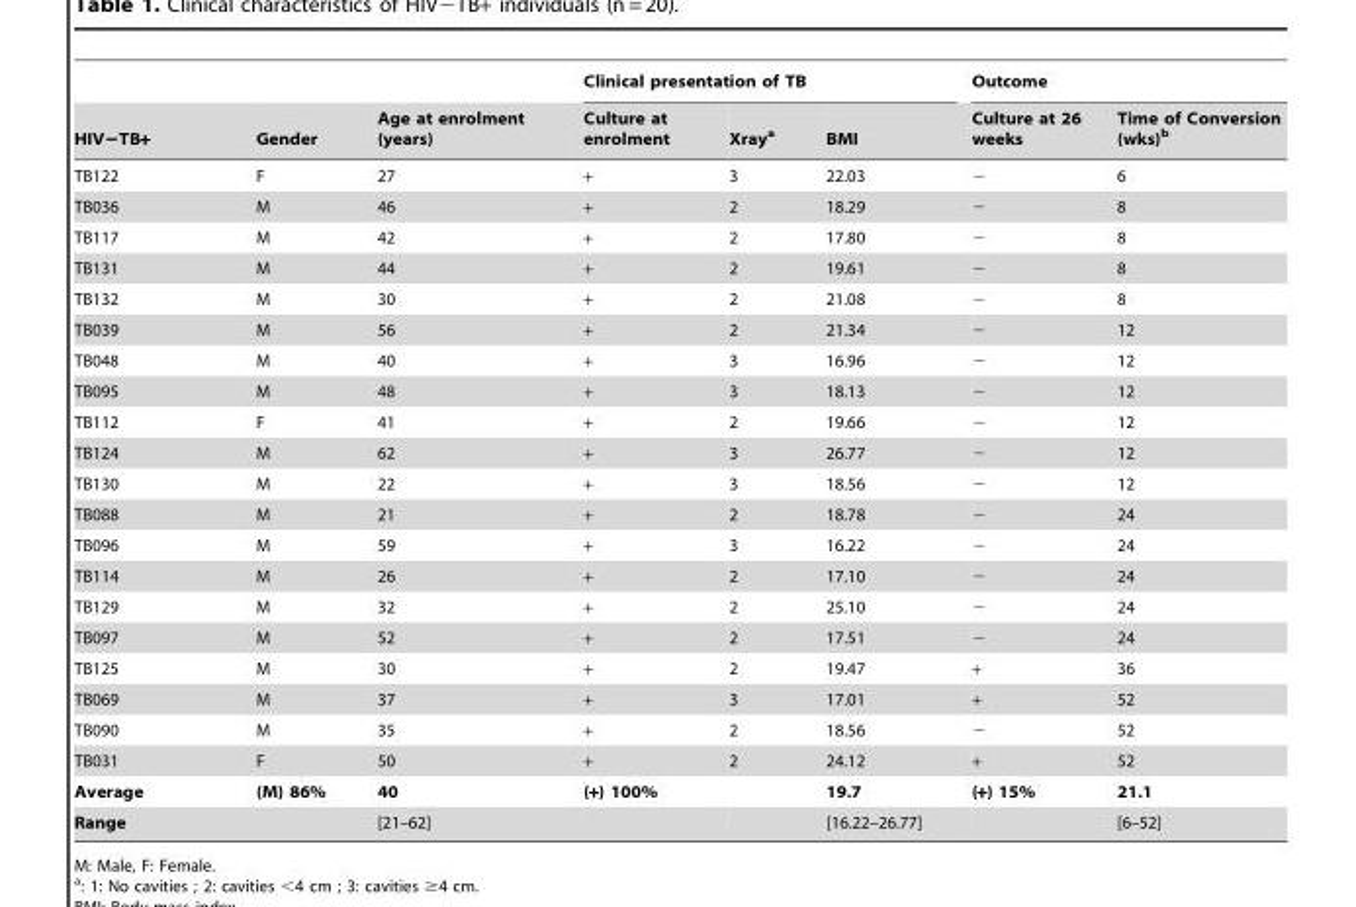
<table><thead><tr><td rowspan="2">HIV−TB+</td><td rowspan="2">Gender</td><td rowspan="2">Age at enrolment (years)</td><td colspan="3">Clinical presentation of TB</td><td colspan="2">Outcome</td></tr><tr><td>Culture at enrolment</td><td>Xray<sup>a</sup></td><td>BMI</td><td>Culture at 26 weeks</td><td>Time of Conversion (wks)<sup>b</sup></td></tr></thead><tbody><tr><td>TB122</td><td>F</td><td>27</td><td>+</td><td>3</td><td>22.03</td><td>−</td><td>6</td></tr><tr><td>TB036</td><td>M</td><td>46</td><td>+</td><td>2</td><td>18.29</td><td>−</td><td>8</td></tr><tr><td>TB117</td><td>M</td><td>42</td><td>+</td><td>2</td><td>17.80</td><td>−</td><td>8</td></tr><tr><td>TB131</td><td>M</td><td>44</td><td>+</td><td>2</td><td>19.61</td><td>−</td><td>8</td></tr><tr><td>TB132</td><td>M</td><td>30</td><td>+</td><td>2</td><td>21.08</td><td>−</td><td>8</td></tr><tr><td>TB039</td><td>M</td><td>56</td><td>+</td><td>2</td><td>21.34</td><td>−</td><td>12</td></tr><tr><td>TB048</td><td>M</td><td>40</td><td>+</td><td>3</td><td>16.96</td><td>−</td><td>12</td></tr><tr><td>TB095</td><td>M</td><td>48</td><td>+</td><td>3</td><td>18.13</td><td>−</td><td>12</td></tr><tr><td>TB112</td><td>F</td><td>41</td><td>+</td><td>2</td><td>19.66</td><td>−</td><td>12</td></tr><tr><td>TB124</td><td>M</td><td>62</td><td>+</td><td>3</td><td>26.77</td><td>−</td><td>12</td></tr><tr><td>TB130</td><td>M</td><td>22</td><td>+</td><td>3</td><td>18.56</td><td>−</td><td>12</td></tr><tr><td>TB088</td><td>M</td><td>21</td><td>+</td><td>2</td><td>18.78</td><td>−</td><td>24</td></tr><tr><td>TB096</td><td>M</td><td>59</td><td>+</td><td>3</td><td>16.22</td><td>−</td><td>24</td></tr><tr><td>TB114</td><td>M</td><td>26</td><td>+</td><td>2</td><td>17.10</td><td>−</td><td>24</td></tr><tr><td>TB129</td><td>M</td><td>32</td><td>+</td><td>2</td><td>25.10</td><td>−</td><td>24</td></tr><tr><td>TB097</td><td>M</td><td>52</td><td>+</td><td>2</td><td>17.51</td><td>−</td><td>24</td></tr><tr><td>TB125</td><td>M</td><td>30</td><td>+</td><td>2</td><td>19.47</td><td>+</td><td>36</td></tr><tr><td>TB069</td><td>M</td><td>37</td><td>+</td><td>3</td><td>17.01</td><td>+</td><td>52</td></tr><tr><td>TB090</td><td>M</td><td>35</td><td>+</td><td>2</td><td>18.56</td><td>−</td><td>52</td></tr><tr><td>TB031</td><td>F</td><td>50</td><td>+</td><td>2</td><td>24.12</td><td>+</td><td>52</td></tr><tr><td>Average</td><td>(M) 86%</td><td>40</td><td>(+) 100%</td><td></td><td>19.7</td><td>(+) 15%</td><td>21.1</td></tr><tr><td>Range</td><td></td><td>[21–62]</td><td></td><td></td><td>[16.22–26.77]</td><td></td><td>[6–52]</td></tr></tbody></table>